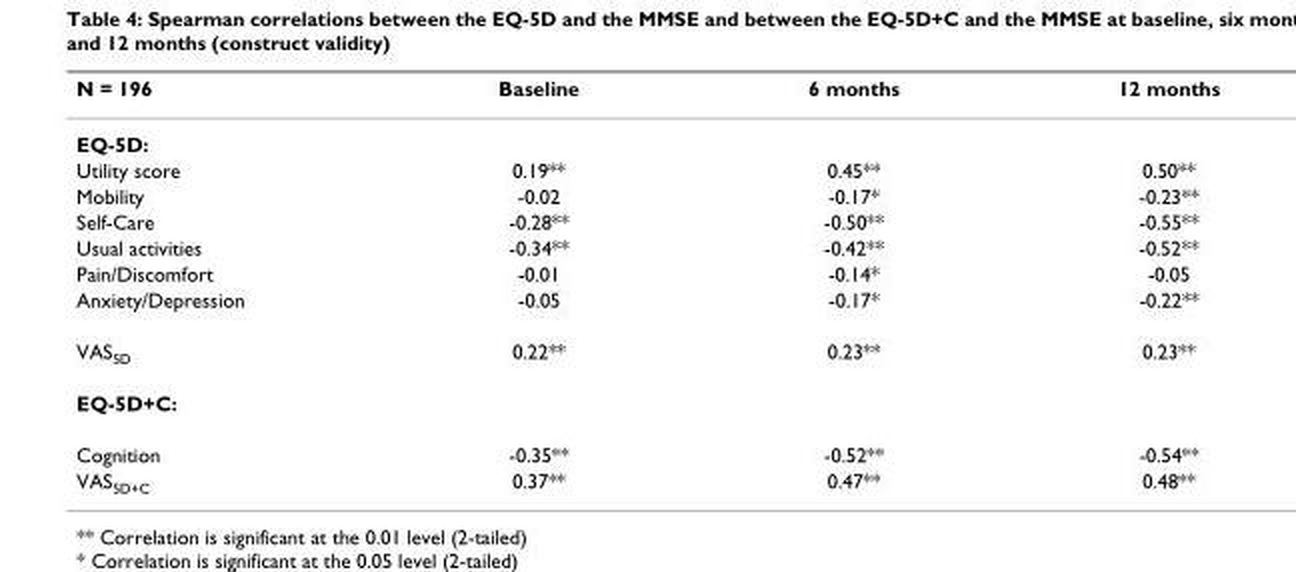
<table><thead><tr><td>N = 196</td><td>Baseline</td><td>6 months</td><td>12 months</td></tr></thead><tbody><tr><td colspan="4">EQ-5D:</td></tr><tr><td>Utility score</td><td>0.19**</td><td>0.45**</td><td>0.50**</td></tr><tr><td>Mobility</td><td>-0.02</td><td>-0.17*</td><td>-0.23**</td></tr><tr><td>Self-Care</td><td>-0.28**</td><td>-0.50**</td><td>-0.55**</td></tr><tr><td>Usual activities</td><td>-0.34**</td><td>-0.42**</td><td>-0.52**</td></tr><tr><td>Pain/Discomfort</td><td>-0.01</td><td>-0.14*</td><td>-0.05</td></tr><tr><td>Anxiety/Depression</td><td>-0.05</td><td>-0.17*</td><td>-0.22**</td></tr><tr><td>VAS<sub>5D</sub></td><td>0.22**</td><td>0.23**</td><td>0.23**</td></tr><tr><td colspan="4">EQ-5D+C:</td></tr><tr><td>Cognition</td><td>-0.35**</td><td>-0.52**</td><td>-0.54**</td></tr><tr><td>VAS<sub>5D+C</sub></td><td>0.37**</td><td>0.47**</td><td>0.48**</td></tr></tbody></table>